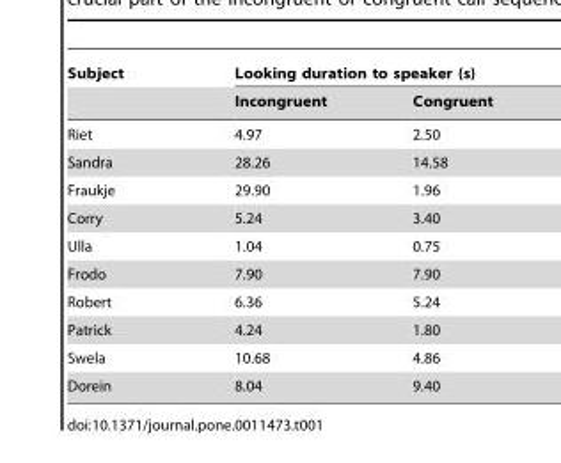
<table><thead><tr><td rowspan="2">Subject</td><td colspan="2">Looking duration to speaker (s)</td></tr><tr><td>Incongruent</td><td>Congruent</td></tr></thead><tbody><tr><td>Riet</td><td>4.97</td><td>2.50</td></tr><tr><td>Sandra</td><td>28.26</td><td>14.58</td></tr><tr><td>Fraukje</td><td>29.90</td><td>1.96</td></tr><tr><td>Corry</td><td>5.24</td><td>3.40</td></tr><tr><td>Ulla</td><td>1.04</td><td>0.75</td></tr><tr><td>Frodo</td><td>7.90</td><td>7.90</td></tr><tr><td>Robert</td><td>6.36</td><td>5.24</td></tr><tr><td>Patrick</td><td>4.24</td><td>1.80</td></tr><tr><td>Swela</td><td>10.68</td><td>4.86</td></tr><tr><td>Dorein</td><td>8.04</td><td>9.40</td></tr></tbody></table>